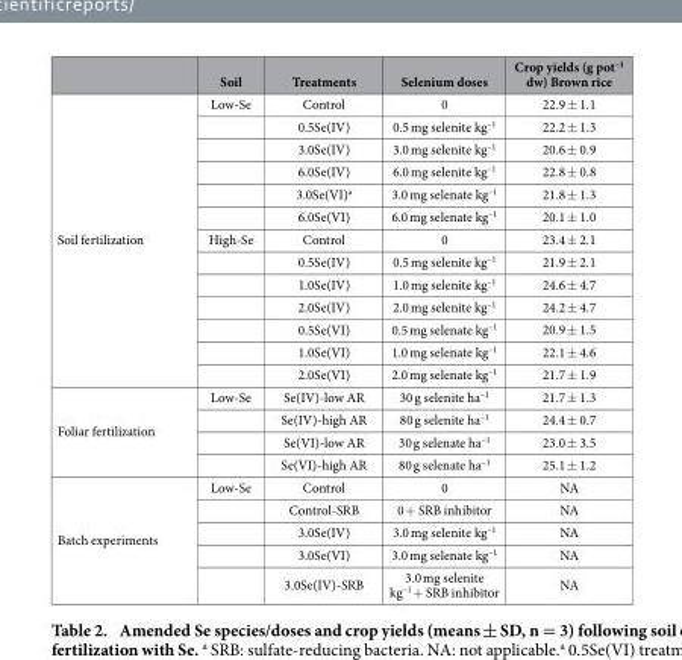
<table><thead><tr><td></td><td>Soil</td><td>Treatments</td><td>Selenium doses</td><td>Crop yields (g pot<sup>–1</sup> dw) Brown rice</td></tr></thead><tbody><tr><td rowspan="13">Soil fertilization</td><td>Low-Se</td><td>Control</td><td>0</td><td>22.9 ± 1.1</td></tr><tr><td></td><td>0.5Se(IV)</td><td>0.5 mg selenite kg<sup>–1</sup></td><td>22.2 ± 1.3</td></tr><tr><td></td><td>3.0Se(IV)</td><td>3.0 mg selenite kg<sup>–1</sup></td><td>20.6 ± 0.9</td></tr><tr><td></td><td>6.0Se(IV)</td><td>6.0 mg selenite kg<sup>–1</sup></td><td>22.8 ± 0.8</td></tr><tr><td></td><td>3.0Se(VI)<sup>a</sup></td><td>3.0 mg selenate kg<sup>–1</sup></td><td>21.8 ± 1.3</td></tr><tr><td></td><td>6.0Se(VI)</td><td>6.0 mg selenate kg<sup>–1</sup></td><td>20.1 ± 1.0</td></tr><tr><td>High-Se</td><td>Control</td><td>0</td><td>23.4 ± 2.1</td></tr><tr><td></td><td>0.5Se(IV)</td><td>0.5 mg selenite kg<sup>–1</sup></td><td>21.9 ± 2.1</td></tr><tr><td></td><td>1.0Se(IV)</td><td>1.0 mg selenite kg<sup>–1</sup></td><td>24.6 ± 4.7</td></tr><tr><td></td><td>2.0Se(IV)</td><td>2.0 mg selenite kg<sup>–1</sup></td><td>24.2 ± 4.7</td></tr><tr><td></td><td>0.5Se(VI)</td><td>0.5 mg selenate kg<sup>–1</sup></td><td>20.9 ± 1.5</td></tr><tr><td></td><td>1.0Se(VI)</td><td>1.0 mg selenate kg<sup>–1</sup></td><td>22.1 ± 4.6</td></tr><tr><td></td><td>2.0Se(VI)</td><td>2.0 mg selenate kg<sup>–1</sup></td><td>21.7 ± 1.9</td></tr><tr><td rowspan="4">Foliar fertilization</td><td>Low-Se</td><td>Se(IV)-low AR</td><td>30 g selenite ha<sup>–1</sup></td><td>21.7 ± 1.3</td></tr><tr><td></td><td>Se(IV)-high AR</td><td>80 g selenite ha<sup>–1</sup></td><td>24.4 ± 0.7</td></tr><tr><td></td><td>Se(VI)-low AR</td><td>30 g selenate ha<sup>–1</sup></td><td>23.0 ± 3.5</td></tr><tr><td></td><td>Se(VI)-high AR</td><td>80 g selenate ha<sup>–1</sup></td><td>25.1 ± 1.2</td></tr><tr><td rowspan="5">Batch experiments</td><td>Low-Se</td><td>Control</td><td>0</td><td>NA</td></tr><tr><td></td><td>Control-SRB</td><td>0 + SRB inhibitor</td><td>NA</td></tr><tr><td></td><td>3.0Se(IV)</td><td>3.0 mg selenite kg<sup>–1</sup></td><td>NA</td></tr><tr><td></td><td>3.0Se(VI)</td><td>3.0 mg selenate kg<sup>–1</sup></td><td>NA</td></tr><tr><td></td><td>3.0Se(IV)-SRB</td><td>3.0 mg selenite kg<sup>–1</sup> + SRB inhibitor</td><td>NA</td></tr></tbody></table>